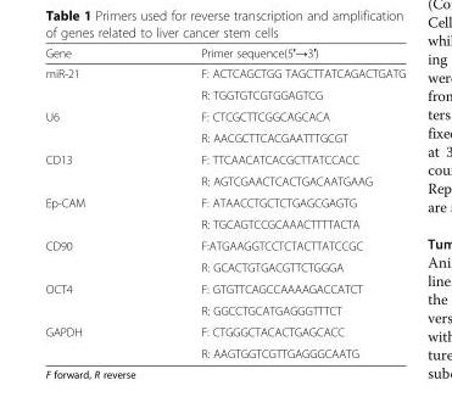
<table><thead><tr><td>Gene</td><td>Primer sequence(5′→3′)</td></tr></thead><tbody><tr><td rowspan="2">miR-21</td><td>F: ACTCAGCTGG TAGCTTATCAGACTGATG</td></tr><tr><td>R: TGGTGTCGTGGAGTCG</td></tr><tr><td rowspan="2">U6</td><td>F: CTCGCTTCGGCAGCACA</td></tr><tr><td>R: AACGCTTCACGAATTTGCGT</td></tr><tr><td rowspan="2">CD13</td><td>F: TTCAACATCACGCTTATCCACC</td></tr><tr><td>R: AGTCGAACTCACTGACAATGAAG</td></tr><tr><td rowspan="2">Ep-CAM</td><td>F: ATAACCTGCTCTGAGCGAGTG</td></tr><tr><td>R: TGCAGTCCGCAAACTTTTACTA</td></tr><tr><td rowspan="2">CD90</td><td>F:ATGAAGGTCCTCTACTTATCCGC</td></tr><tr><td>R: GCACTGTGACGTTCTGGGA</td></tr><tr><td rowspan="2">OCT4</td><td>F: GTGTTCAGCCAAAAGACCATCT</td></tr><tr><td>R: GGCCTGCATGAGGGTTTCT</td></tr><tr><td rowspan="2">GAPDH</td><td>F: CTGGGCTACACTGAGCACC</td></tr><tr><td>R: AAGTGGTCGTTGAGGGCAATG</td></tr></tbody></table>